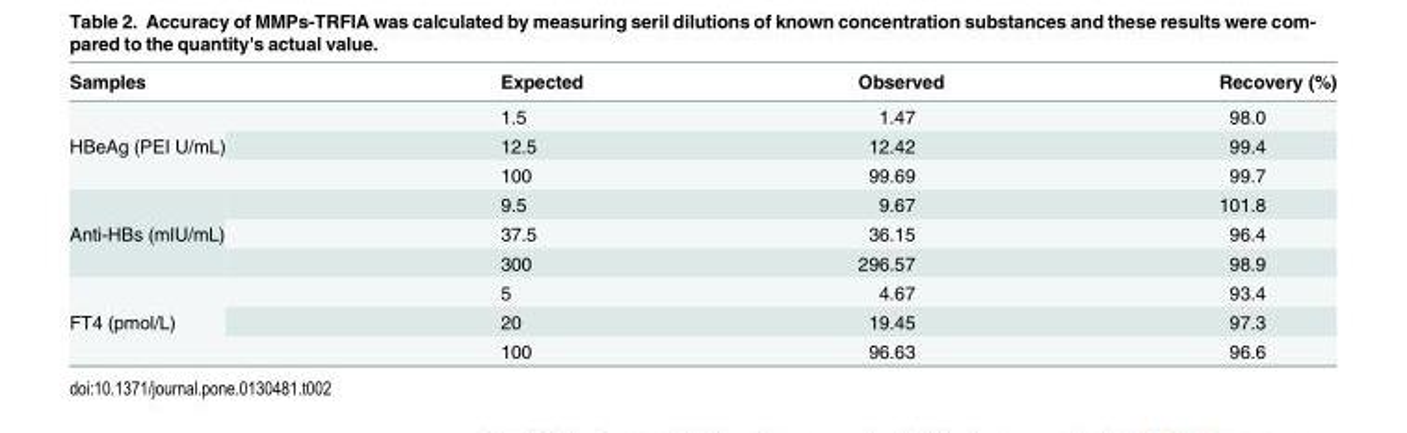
<table><thead><tr><td>Samples</td><td>Expected</td><td>Observed</td><td>Recovery (%)</td></tr></thead><tbody><tr><td rowspan="3">HBeAg (PEI U/mL)</td><td>1.5</td><td>1.47</td><td>98.0</td></tr><tr><td>12.5</td><td>12.42</td><td>99.4</td></tr><tr><td>100</td><td>99.69</td><td>99.7</td></tr><tr><td rowspan="3">Anti-HBs (mIU/mL)</td><td>9.5</td><td>9.67</td><td>101.8</td></tr><tr><td>37.5</td><td>36.15</td><td>96.4</td></tr><tr><td>300</td><td>296.57</td><td>98.9</td></tr><tr><td rowspan="3">FT4 (pmol/L)</td><td>5</td><td>4.67</td><td>93.4</td></tr><tr><td>20</td><td>19.45</td><td>97.3</td></tr><tr><td>100</td><td>96.63</td><td>96.6</td></tr></tbody></table>